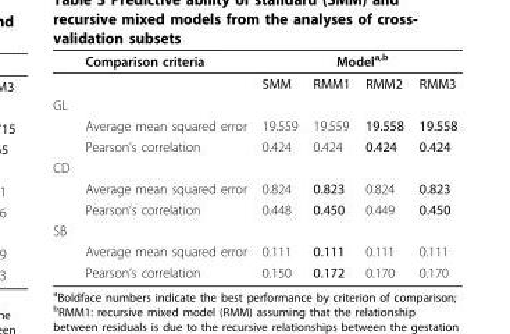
<table><thead><tr><td rowspan="2"></td><td rowspan="2">Comparison criteria</td><td colspan="4">Model<sup>a,b</sup></td></tr><tr><td>SMM</td><td>RMM1</td><td>RMM2</td><td>RMM3</td></tr></thead><tbody><tr><td colspan="6">GL</td></tr><tr><td></td><td>Average mean squared error</td><td>19.559</td><td>19.559</td><td>19.558</td><td>19.558</td></tr><tr><td></td><td>Pearson’s correlation</td><td>0.424</td><td>0.424</td><td>0.424</td><td>0.424</td></tr><tr><td colspan="6">CD</td></tr><tr><td></td><td>Average mean squared error</td><td>0.824</td><td>0.823</td><td>0.824</td><td>0.823</td></tr><tr><td></td><td>Pearson’s correlation</td><td>0.448</td><td>0.450</td><td>0.449</td><td>0.450</td></tr><tr><td colspan="6">SB</td></tr><tr><td></td><td>Average mean squared error</td><td>0.111</td><td>0.111</td><td>0.111</td><td>0.111</td></tr><tr><td></td><td>Pearson’s correlation</td><td>0.150</td><td>0.172</td><td>0.170</td><td>0.170</td></tr></tbody></table>